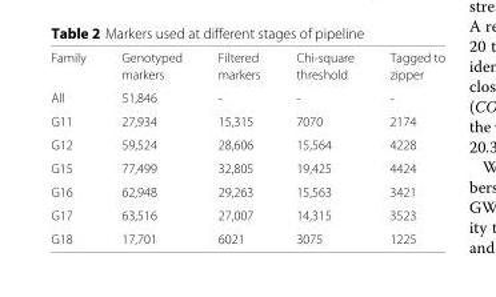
<table><tbody><tr><td rowspan="2">Family</td><td>Genotyped</td><td>Filtered</td><td>Chi-square</td><td>Tagged to</td></tr><tr><td>markers</td><td>markers</td><td>threshold</td><td>zipper</td></tr><tr><td>All</td><td>51,846</td><td>-</td><td>-</td><td>-</td></tr><tr><td>G11</td><td>27,934</td><td>15,315</td><td>7070</td><td>2174</td></tr><tr><td>G12</td><td>59,524</td><td>28,606</td><td>15,564</td><td>4228</td></tr><tr><td>G15</td><td>77,499</td><td>32,805</td><td>19,425</td><td>4424</td></tr><tr><td>G16</td><td>62,948</td><td>29,263</td><td>15,563</td><td>3421</td></tr><tr><td>G17</td><td>63,516</td><td>27,007</td><td>14,315</td><td>3523</td></tr><tr><td>G18</td><td>17,701</td><td>6021</td><td>3075</td><td>1225</td></tr></tbody></table>